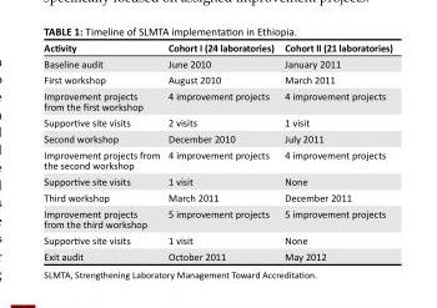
<table><thead><tr><td>Activity</td><td>Cohort I (24 laboratories)</td><td>Cohort II (21 laboratories)</td></tr></thead><tbody><tr><td>Baseline audit</td><td>June 2010</td><td>January 2011</td></tr><tr><td>First workshop</td><td>August 2010</td><td>March 2011</td></tr><tr><td>Improvement projects from the first workshop</td><td>4 improvement projects</td><td>4 improvement projects</td></tr><tr><td>Supportive site visits</td><td>2 visits</td><td>1 visit</td></tr><tr><td>Second workshop</td><td>December 2010</td><td>July 2011</td></tr><tr><td>Improvement projects from the second workshop</td><td>4 improvement projects</td><td>4 improvement projects</td></tr><tr><td>Supportive site visits</td><td>1 visit</td><td>None</td></tr><tr><td>Third workshop</td><td>March 2011</td><td>December 2011</td></tr><tr><td>Improvement projects from the third workshop</td><td>5 improvement projects</td><td>5 improvement projects</td></tr><tr><td>Supportive site visits</td><td>1 visit</td><td>None</td></tr><tr><td>Exit audit</td><td>October 2011</td><td>May 2012</td></tr></tbody></table>